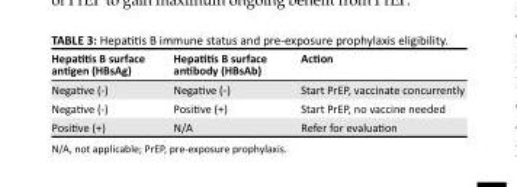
<table><thead><tr><td>Hepatitis B surface antigen (HBsAg)</td><td>Hepatitis B surface antibody (HBsAb)</td><td>Action</td></tr></thead><tbody><tr><td>Negative (-)</td><td>Negative (-)</td><td>Start PrEP, vaccinate concurrently</td></tr><tr><td>Negative (-)</td><td>Positive (+)</td><td>Start PrEP, no vaccine needed</td></tr><tr><td>Positive (+)</td><td>N/A</td><td>Refer for evaluation</td></tr></tbody></table>